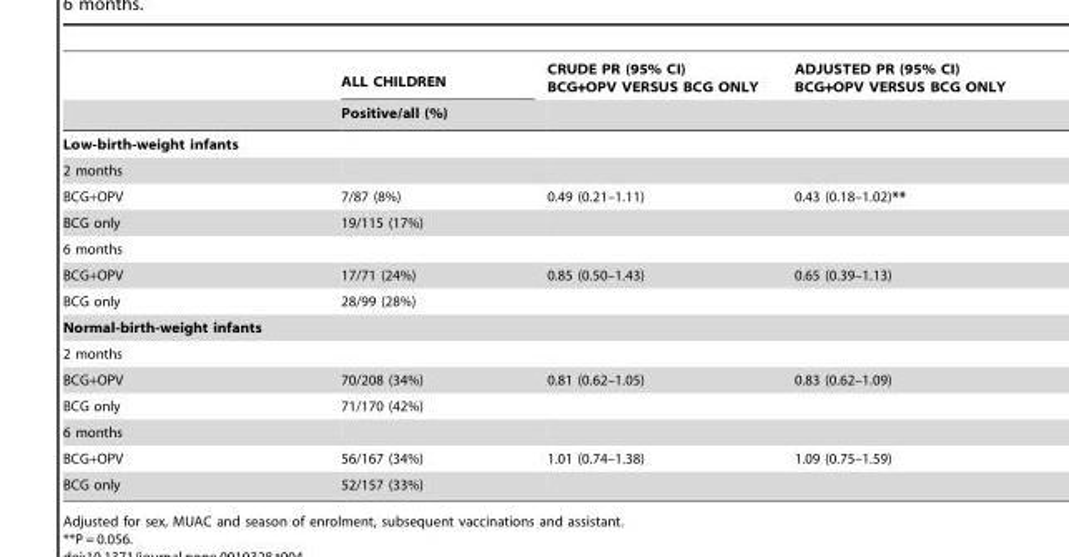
<table><thead><tr><td rowspan="2"></td><td rowspan="2">ALL CHILDREN Positive/all (%)</td><td rowspan="2">CRUDE PR (95% CI) BCG+OPV VERSUS BCG ONLY</td><td rowspan="2">ADJUSTED PR (95% CI) BCG+OPV VERSUS BCG ONLY</td></tr><tr></tr></thead><tbody><tr><td colspan="4">Low-birth-weight infants</td></tr><tr><td colspan="4">2 months</td></tr><tr><td>BCG+OPV</td><td>7/87 (8%)</td><td>0.49 (0.21–1.11)</td><td>0.43 (0.18–1.02)**</td></tr><tr><td>BCG only</td><td>19/115 (17%)</td><td></td><td></td></tr><tr><td colspan="4">6 months</td></tr><tr><td>BCG+OPV</td><td>17/71 (24%)</td><td>0.85 (0.50–1.43)</td><td>0.65 (0.39–1.13)</td></tr><tr><td>BCG only</td><td>28/99 (28%)</td><td></td><td></td></tr><tr><td colspan="4">Normal-birth-weight infants</td></tr><tr><td colspan="4">2 months</td></tr><tr><td>BCG+OPV</td><td>70/208 (34%)</td><td>0.81 (0.62–1.05)</td><td>0.83 (0.62–1.09)</td></tr><tr><td>BCG only</td><td>71/170 (42%)</td><td></td><td></td></tr><tr><td colspan="4">6 months</td></tr><tr><td>BCG+OPV</td><td>56/167 (34%)</td><td>1.01 (0.74–1.38)</td><td>1.09 (0.75–1.59)</td></tr><tr><td>BCG only</td><td>52/157 (33%)</td><td></td><td></td></tr></tbody></table>